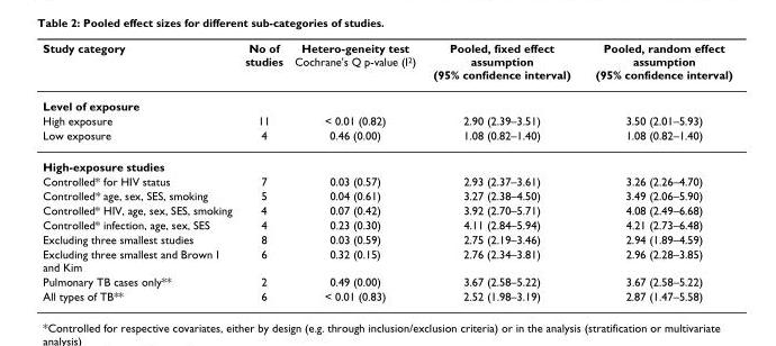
<table><thead><tr><td>Study category</td><td>No of studies</td><td>Hetero-geneity test Cochrane&#x27;s Q p-value (I<sup>2</sup>)</td><td>Pooled, fixed effect assumption (95% confidence interval)</td><td>Pooled, random effect assumption (95% confidence interval)</td></tr></thead><tbody><tr><td colspan="5">Level of exposure</td></tr><tr><td>High exposure</td><td>11</td><td>&lt; 0.01 (0.82)</td><td>2.90 (2.39–3.51)</td><td>3.50 (2.01–5.93)</td></tr><tr><td>Low exposure</td><td>4</td><td>0.46 (0.00)</td><td>1.08 (0.82–1.40)</td><td>1.08 (0.82–1.40)</td></tr><tr><td colspan="5">High-exposure studies</td></tr><tr><td>Controlled* for HIV status</td><td>7</td><td>0.03 (0.57)</td><td>2.93 (2.37–3.61)</td><td>3.26 (2.26–4.70)</td></tr><tr><td>Controlled* age, sex, SES, smoking</td><td>5</td><td>0.04 (0.61)</td><td>3.27 (2.38–4.50)</td><td>3.49 (2.06–5.90)</td></tr><tr><td>Controlled* HIV, age, sex, SES, smoking</td><td>4</td><td>0.07 (0.42)</td><td>3.92 (2.70–5.71)</td><td>4.08 (2.49–6.68)</td></tr><tr><td>Controlled* infection, age, sex, SES</td><td>4</td><td>0.23 (0.30)</td><td>4.11 (2.84–5.94)</td><td>4.21 (2.73–6.48)</td></tr><tr><td>Excluding three smallest studies</td><td>8</td><td>0.03 (0.59)</td><td>2.75 (2.19–3.46)</td><td>2.94 (1.89–4.59)</td></tr><tr><td>Excluding three smallest and Brown I and Kim</td><td>6</td><td>0.32 (0.15)</td><td>2.76 (2.34–3.81)</td><td>2.96 (2.28–3.85)</td></tr><tr><td>Pulmonary TB cases only**</td><td>2</td><td>0.49 (0.00)</td><td>3.67 (2.58–5.22)</td><td>3.67 (2.58–5.22)</td></tr><tr><td>All types of TB**</td><td>6</td><td>&lt; 0.01 (0.83)</td><td>2.52 (1.98–3.19)</td><td>2.87 (1.47–5.58)</td></tr></tbody></table>